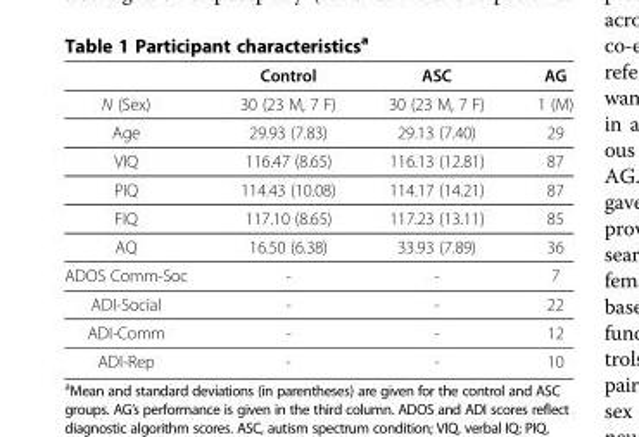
<table><thead><tr><td></td><td>Control</td><td>ASC</td><td>AG</td></tr></thead><tbody><tr><td>N (Sex)</td><td>30 (23 M, 7 F)</td><td>30 (23 M, 7 F)</td><td>1 (M)</td></tr><tr><td>Age</td><td>29.93 (7.83)</td><td>29.13 (7.40)</td><td>29</td></tr><tr><td>VIQ</td><td>116.47 (8.65)</td><td>116.13 (12.81)</td><td>87</td></tr><tr><td>PIQ</td><td>114.43 (10.08)</td><td>114.17 (14.21)</td><td>87</td></tr><tr><td>FIQ</td><td>117.10 (8.65)</td><td>117.23 (13.11)</td><td>85</td></tr><tr><td>AQ</td><td>16.50 (6.38)</td><td>33.93 (7.89)</td><td>36</td></tr><tr><td>ADOS Comm-Soc</td><td>-</td><td>-</td><td>7</td></tr><tr><td>ADI-Social</td><td>-</td><td>-</td><td>22</td></tr><tr><td>ADI-Comm</td><td>-</td><td>-</td><td>12</td></tr><tr><td>ADI-Rep</td><td>-</td><td>-</td><td>10</td></tr></tbody></table>